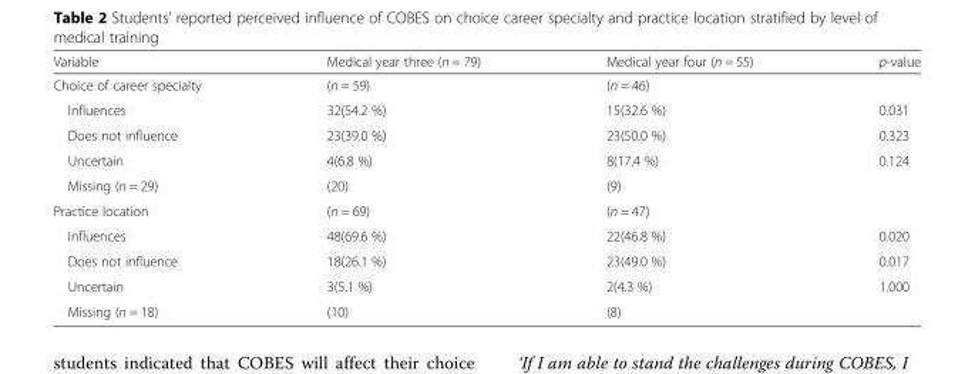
<table><thead><tr><td>Variable</td><td>Medical year three (n = 79)</td><td>Medical year four (n = 55)</td><td>p-value</td></tr></thead><tbody><tr><td>Choice of career specialty</td><td>(n = 59)</td><td>(n = 46)</td><td></td></tr><tr><td>Influences</td><td>32(54.2 %)</td><td>15(32.6 %)</td><td>0.031</td></tr><tr><td>Does not influence</td><td>23(39.0 %)</td><td>23(50.0 %)</td><td>0.323</td></tr><tr><td>Uncertain</td><td>4(6.8 %)</td><td>8(17.4 %)</td><td>0.124</td></tr><tr><td>Missing (n = 29)</td><td>(20)</td><td>(9)</td><td></td></tr><tr><td>Practice location</td><td>(n = 69)</td><td>(n = 47)</td><td></td></tr><tr><td>Influences</td><td>48(69.6 %)</td><td>22(46.8 %)</td><td>0.020</td></tr><tr><td>Does not influence</td><td>18(26.1 %)</td><td>23(49.0 %)</td><td>0.017</td></tr><tr><td>Uncertain</td><td>3(5.1 %)</td><td>2(4.3 %)</td><td>1.000</td></tr><tr><td>Missing (n = 18)</td><td>(10)</td><td>(8)</td><td></td></tr></tbody></table>